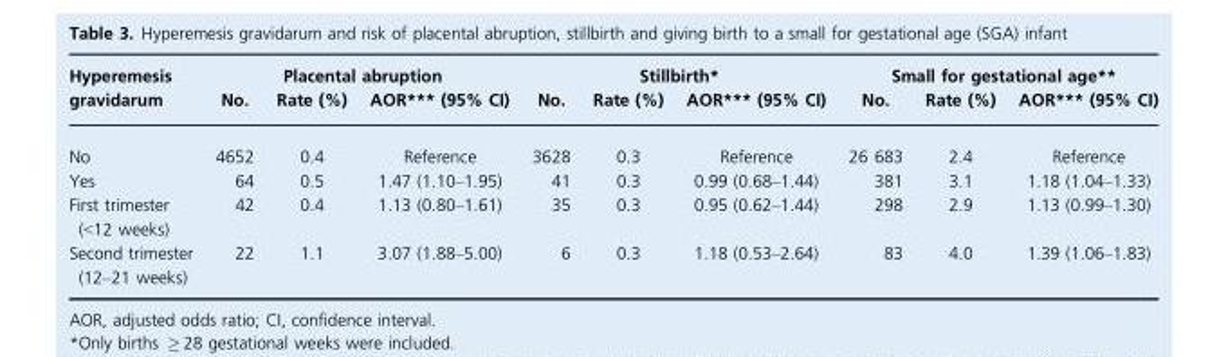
<table><thead><tr><td rowspan="2">Hyperemesis gravidarum</td><td colspan="3">Placental abruption</td><td colspan="3">Stillbirth*</td><td colspan="3">Small for gestational age**</td></tr><tr><td>No.</td><td>Rate (%)</td><td>AOR*** (95% CI)</td><td>No.</td><td>Rate (%)</td><td>AOR*** (95% CI)</td><td>No.</td><td>Rate (%)</td><td>AOR*** (95% CI)</td></tr></thead><tbody><tr><td>No</td><td>4652</td><td>0.4</td><td>Reference</td><td>3628</td><td>0.3</td><td>Reference</td><td>26 683</td><td>2.4</td><td>Reference</td></tr><tr><td>Yes</td><td>64</td><td>0.5</td><td>1.47 (1.10–1.95)</td><td>41</td><td>0.3</td><td>0.99 (0.68–1.44)</td><td>381</td><td>3.1</td><td>1.18 (1.04–1.33)</td></tr><tr><td>First trimester (&lt;12 weeks)</td><td>42</td><td>0.4</td><td>1.13 (0.80–1.61)</td><td>35</td><td>0.3</td><td>0.95 (0.62–1.44)</td><td>298</td><td>2.9</td><td>1.13 (0.99–1.30)</td></tr><tr><td>Second trimester (12–21 weeks)</td><td>22</td><td>1.1</td><td>3.07 (1.88–5.00)</td><td>6</td><td>0.3</td><td>1.18 (0.53–2.64)</td><td>83</td><td>4.0</td><td>1.39 (1.06–1.83)</td></tr></tbody></table>